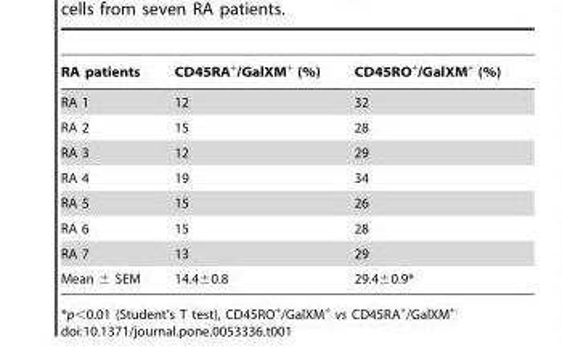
<table><thead><tr><td>RA patients</td><td>CD45RA<sup>+</sup>/GalXM<sup>+</sup> (%)</td><td>CD45RO<sup>+</sup>/GalXM<sup>+</sup> (%)</td></tr></thead><tbody><tr><td>RA 1</td><td>12</td><td>32</td></tr><tr><td>RA 2</td><td>15</td><td>28</td></tr><tr><td>RA 3</td><td>12</td><td>29</td></tr><tr><td>RA 4</td><td>19</td><td>34</td></tr><tr><td>RA 5</td><td>15</td><td>26</td></tr><tr><td>RA 6</td><td>15</td><td>28</td></tr><tr><td>RA 7</td><td>13</td><td>29</td></tr><tr><td>Mean ± SEM</td><td>14.4±0.8</td><td>29.4±0.9*</td></tr></tbody></table>